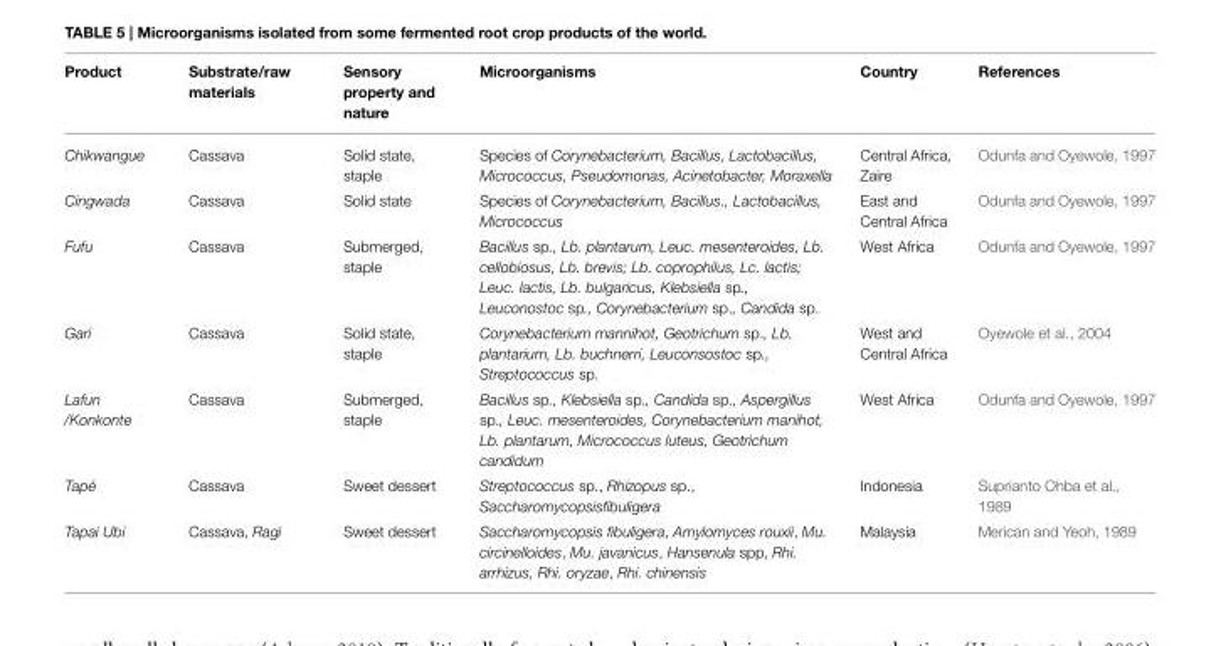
<table><thead><tr><td>Product</td><td>Substrate/raw materials</td><td>Sensory property and nature</td><td>Microorganisms</td><td>Country</td><td>References</td></tr></thead><tbody><tr><td>Chikwangue</td><td>Cassava</td><td>Solid state, staple</td><td>Species of Corynebacterium, Bacillus, Lactobacillus, Micrococcus, Pseudomonas, Acinetobacter, Moraxella</td><td>Central Africa, Zaire</td><td>Odunfa and Oyewole, 1997</td></tr><tr><td>Cingwada</td><td>Cassava</td><td>Solid state</td><td>Species of Corynebacterium, Bacillus., Lactobacillus, Micrococcus</td><td>East and Central Africa</td><td>Odunfa and Oyewole, 1997</td></tr><tr><td>Fufu</td><td>Cassava</td><td>Submerged, staple</td><td>Bacillus sp., Lb. plantarum, Leuc. mesenteroides, Lb. cellobiosus, Lb. brevis; Lb. coprophilus, Lc. lactis; Leuc. lactis, Lb. bulgaricus, Klebsiella sp., Leuconostoc sp., Corynebacterium sp., Candida sp.</td><td>West Africa</td><td>Odunfa and Oyewole, 1997</td></tr><tr><td>Gari</td><td>Cassava</td><td>Solid state, staple</td><td>Corynebacterium mannihot, Geotrichum sp., Lb. plantarium, Lb. buchnerri, Leuconsostoc sp., Streptococcus sp.</td><td>West and Central Africa</td><td>Oyewole et al., 2004</td></tr><tr><td>Lafun /Konkonte</td><td>Cassava</td><td>Submerged, staple</td><td>Bacillus sp., Klebsiella sp., Candida sp., Aspergillus sp., Leuc. mesenteroides, Corynebacterium manihot, Lb. plantarum, Micrococcus luteus, Geotrichum candidum</td><td>West Africa</td><td>Odunfa and Oyewole, 1997</td></tr><tr><td>Tapé</td><td>Cassava</td><td>Sweet dessert</td><td>Streptococcus sp., Rhizopus sp., Saccharomycopsisfibuligera</td><td>Indonesia</td><td>Suprianto Ohba et al., 1989</td></tr><tr><td>Tapai Ubi</td><td>Cassava, Ragi</td><td>Sweet dessert</td><td>Saccharomycopsis fibuligera, Amylomyces rouxii, Mu. circinelloides, Mu. javanicus, Hansenula spp, Rhi. arrhizus, Rhi. oryzae, Rhi. chinensis</td><td>Malaysia</td><td>Merican and Yeoh, 1989</td></tr></tbody></table>